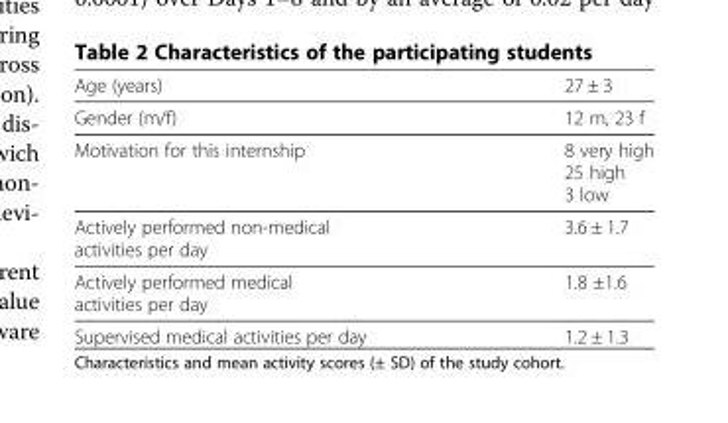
<table><tbody><tr><td>Age (years)</td><td>27 ± 3</td></tr><tr><td>Gender (m/f)</td><td>12 m, 23 f</td></tr><tr><td>Motivation for this internship</td><td>8 very high 25 high 3 low</td></tr><tr><td>Actively performed non-medical activities per day</td><td>3.6 ± 1.7</td></tr><tr><td>Actively performed medical activities per day</td><td>1.8 ±1.6</td></tr><tr><td>Supervised medical activities per day</td><td>1.2 ± 1.3</td></tr></tbody></table>